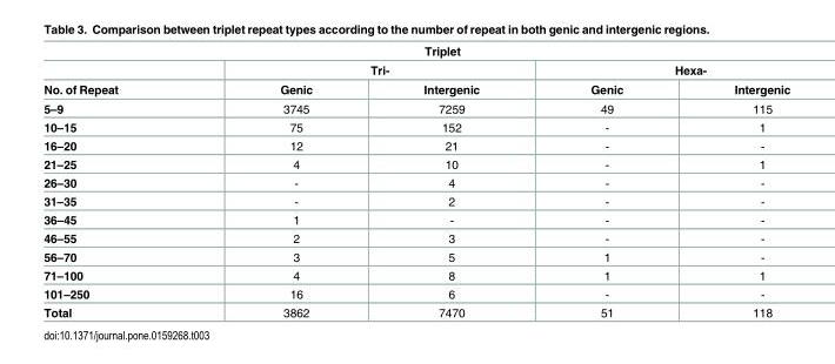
<table><thead><tr><td colspan="5">Triplet</td></tr><tr><td rowspan="2">No. of Repeat</td><td colspan="2">Tri-</td><td colspan="2">Hexa-</td></tr><tr><td>Genic</td><td>Intergenic</td><td>Genic</td><td>Intergenic</td></tr></thead><tbody><tr><td>5–9</td><td>3745</td><td>7259</td><td>49</td><td>115</td></tr><tr><td>10–15</td><td>75</td><td>152</td><td>-</td><td>1</td></tr><tr><td>16–20</td><td>12</td><td>21</td><td>-</td><td>-</td></tr><tr><td>21–25</td><td>4</td><td>10</td><td>-</td><td>1</td></tr><tr><td>26–30</td><td>-</td><td>4</td><td>-</td><td>-</td></tr><tr><td>31–35</td><td>-</td><td>2</td><td>-</td><td>-</td></tr><tr><td>36–45</td><td>1</td><td>-</td><td>-</td><td>-</td></tr><tr><td>46–55</td><td>2</td><td>3</td><td>-</td><td>-</td></tr><tr><td>56–70</td><td>3</td><td>5</td><td>1</td><td>-</td></tr><tr><td>71–100</td><td>4</td><td>8</td><td>1</td><td>1</td></tr><tr><td>101–250</td><td>16</td><td>6</td><td>-</td><td>-</td></tr><tr><td>Total</td><td>3862</td><td>7470</td><td>51</td><td>118</td></tr></tbody></table>